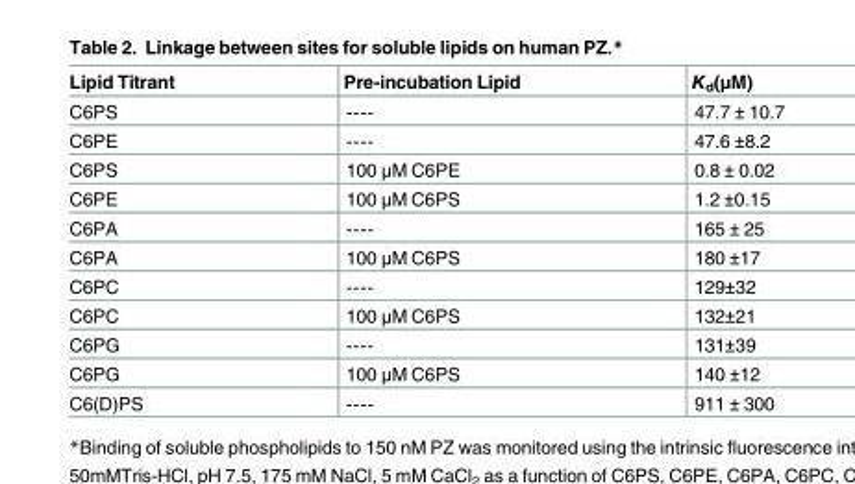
<table><thead><tr><td>Lipid Titrant</td><td>Pre-incubation Lipid</td><td>K<sub>d</sub>(μM)</td></tr></thead><tbody><tr><td>C6PS</td><td>----</td><td>47.7 ± 10.7</td></tr><tr><td>C6PE</td><td>----</td><td>47.6 ±8.2</td></tr><tr><td>C6PS</td><td>100 μM C6PE</td><td>0.8 ± 0.02</td></tr><tr><td>C6PE</td><td>100 μM C6PS</td><td>1.2 ±0.15</td></tr><tr><td>C6PA</td><td>----</td><td>165 ± 25</td></tr><tr><td>C6PA</td><td>100 μM C6PS</td><td>180 ±17</td></tr><tr><td>C6PC</td><td>----</td><td>129±32</td></tr><tr><td>C6PC</td><td>100 μM C6PS</td><td>132±21</td></tr><tr><td>C6PG</td><td>----</td><td>131±39</td></tr><tr><td>C6PG</td><td>100 μM C6PS</td><td>140 ±12</td></tr><tr><td>C6(D)PS</td><td>----</td><td>911 ± 300</td></tr></tbody></table>